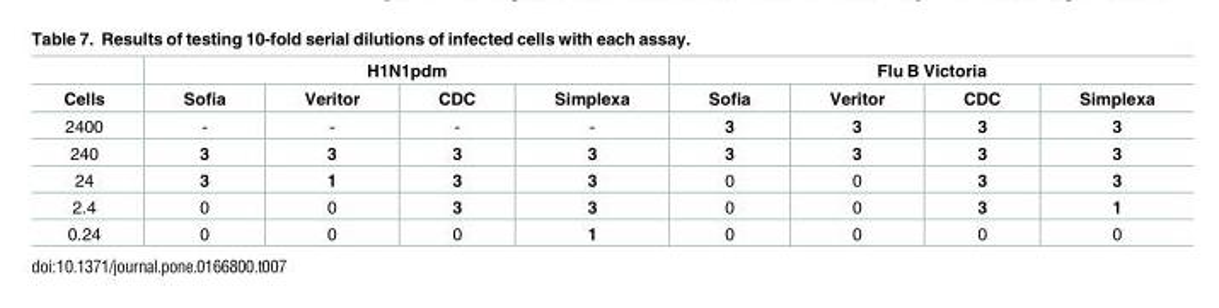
<table><thead><tr><td rowspan="2">Cells</td><td colspan="4">H1N1pdm</td><td colspan="4">Flu B Victoria</td></tr><tr><td>Sofia</td><td>Veritor</td><td>CDC</td><td>Simplexa</td><td>Sofia</td><td>Veritor</td><td>CDC</td><td>Simplexa</td></tr></thead><tbody><tr><td>2400</td><td>-</td><td>-</td><td>-</td><td>-</td><td>3</td><td>3</td><td>3</td><td>3</td></tr><tr><td>240</td><td>3</td><td>3</td><td>3</td><td>3</td><td>3</td><td>3</td><td>3</td><td>3</td></tr><tr><td>24</td><td>3</td><td>1</td><td>3</td><td>3</td><td>0</td><td>0</td><td>3</td><td>3</td></tr><tr><td>2.4</td><td>0</td><td>0</td><td>3</td><td>3</td><td>0</td><td>0</td><td>3</td><td>1</td></tr><tr><td>0.24</td><td>0</td><td>0</td><td>0</td><td>1</td><td>0</td><td>0</td><td>0</td><td>0</td></tr></tbody></table>